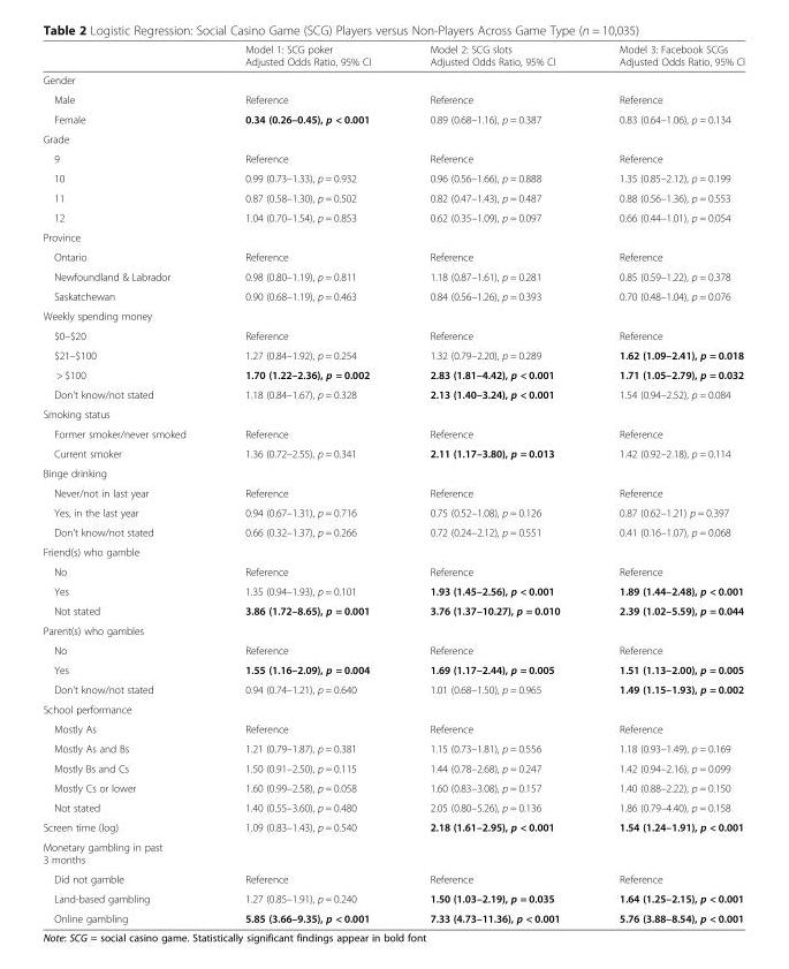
<table><thead><tr><td></td><td>Model 1: SCG poker Adjusted Odds Ratio, 95% CI</td><td>Model 2: SCG slots Adjusted Odds Ratio, 95% CI</td><td>Model 3: Facebook SCGs Adjusted Odds Ratio, 95% CI</td></tr></thead><tbody><tr><td colspan="4">Gender</td></tr><tr><td>Male</td><td>Reference</td><td>Reference</td><td>Reference</td></tr><tr><td>Female</td><td>0.34 (0.26–0.45), p &lt; 0.001</td><td>0.89 (0.68–1.16), p = 0.387</td><td>0.83 (0.64–1.06), p = 0.134</td></tr><tr><td colspan="4">Grade</td></tr><tr><td>9</td><td>Reference</td><td>Reference</td><td>Reference</td></tr><tr><td>10</td><td>0.99 (0.73–1.33), p = 0.932</td><td>0.96 (0.56–1.66), p = 0.888</td><td>1.35 (0.85–2.12), p = 0.199</td></tr><tr><td>11</td><td>0.87 (0.58–1.30), p = 0.502</td><td>0.82 (0.47–1.43), p = 0.487</td><td>0.88 (0.56–1.36), p = 0.553</td></tr><tr><td>12</td><td>1.04 (0.70–1.54), p = 0.853</td><td>0.62 (0.35–1.09), p = 0.097</td><td>0.66 (0.44–1.01), p = 0.054</td></tr><tr><td colspan="4">Province</td></tr><tr><td>Ontario</td><td>Reference</td><td>Reference</td><td>Reference</td></tr><tr><td>Newfoundland &amp; Labrador</td><td>0.98 (0.80–1.19), p = 0.811</td><td>1.18 (0.87–1.61), p = 0.281</td><td>0.85 (0.59–1.22), p = 0.378</td></tr><tr><td>Saskatchewan</td><td>0.90 (0.68–1.19), p = 0.463</td><td>0.84 (0.56–1.26), p = 0.393</td><td>0.70 (0.48–1.04), p = 0.076</td></tr><tr><td colspan="4">Weekly spending money</td></tr><tr><td>$0–$20</td><td>Reference</td><td>Reference</td><td>Reference</td></tr><tr><td>$21–$100</td><td>1.27 (0.84–1.92), p = 0.254</td><td>1.32 (0.79–2.20), p = 0.289</td><td>1.62 (1.09–2.41), p = 0.018</td></tr><tr><td>&gt; $100</td><td>1.70 (1.22–2.36), p = 0.002</td><td>2.83 (1.81–4.42), p &lt; 0.001</td><td>1.71 (1.05–2.79), p = 0.032</td></tr><tr><td>Don’t know/not stated</td><td>1.18 (0.84–1.67), p = 0.328</td><td>2.13 (1.40–3.24), p &lt; 0.001</td><td>1.54 (0.94–2.52), p = 0.084</td></tr><tr><td colspan="4">Smoking status</td></tr><tr><td>Former smoker/never smoked</td><td>Reference</td><td>Reference</td><td>Reference</td></tr><tr><td>Current smoker</td><td>1.36 (0.72–2.55), p = 0.341</td><td>2.11 (1.17–3.80), p = 0.013</td><td>1.42 (0.92–2.18), p = 0.114</td></tr><tr><td colspan="4">Binge drinking</td></tr><tr><td>Never/not in last year</td><td>Reference</td><td>Reference</td><td>Reference</td></tr><tr><td>Yes, in the last year</td><td>0.94 (0.67–1.31), p = 0.716</td><td>0.75 (0.52–1.08), p = 0.126</td><td>0.87 (0.62–1.21) p = 0.397</td></tr><tr><td>Don’t know/not stated</td><td>0.66 (0.32–1.37), p = 0.266</td><td>0.72 (0.24–2.12), p = 0.551</td><td>0.41 (0.16–1.07), p = 0.068</td></tr><tr><td colspan="4">Friend(s) who gamble</td></tr><tr><td>No</td><td>Reference</td><td>Reference</td><td>Reference</td></tr><tr><td>Yes</td><td>1.35 (0.94–1.93), p = 0.101</td><td>1.93 (1.45–2.56), p &lt; 0.001</td><td>1.89 (1.44–2.48), p &lt; 0.001</td></tr><tr><td>Not stated</td><td>3.86 (1.72–8.65), p = 0.001</td><td>3.76 (1.37–10.27), p = 0.010</td><td>2.39 (1.02–5.59), p = 0.044</td></tr><tr><td colspan="4">Parent(s) who gambles</td></tr><tr><td>No</td><td>Reference</td><td>Reference</td><td>Reference</td></tr><tr><td>Yes</td><td>1.55 (1.16–2.09), p = 0.004</td><td>1.69 (1.17–2.44), p = 0.005</td><td>1.51 (1.13–2.00), p = 0.005</td></tr><tr><td>Don’t know/not stated</td><td>0.94 (0.74–1.21), p = 0.640</td><td>1.01 (0.68–1.50), p = 0.965</td><td>1.49 (1.15–1.93), p = 0.002</td></tr><tr><td colspan="4">School performance</td></tr><tr><td>Mostly As</td><td>Reference</td><td>Reference</td><td>Reference</td></tr><tr><td>Mostly As and Bs</td><td>1.21 (0.79–1.87), p = 0.381</td><td>1.15 (0.73–1.81), p = 0.556</td><td>1.18 (0.93–1.49), p = 0.169</td></tr><tr><td>Mostly Bs and Cs</td><td>1.50 (0.91–2.50), p = 0.115</td><td>1.44 (0.78–2.68), p = 0.247</td><td>1.42 (0.94–2.16), p = 0.099</td></tr><tr><td>Mostly Cs or lower</td><td>1.60 (0.99–2.58), p = 0.058</td><td>1.60 (0.83–3.08), p = 0.157</td><td>1.40 (0.88–2.22), p = 0.150</td></tr><tr><td>Not stated</td><td>1.40 (0.55–3.60), p = 0.480</td><td>2.05 (0.80–5.26), p = 0.136</td><td>1.86 (0.79–4.40), p = 0.158</td></tr><tr><td>Screen time (log)</td><td>1.09 (0.83–1.43), p = 0.540</td><td>2.18 (1.61–2.95), p &lt; 0.001</td><td>1.54 (1.24–1.91), p &lt; 0.001</td></tr><tr><td colspan="4">Monetary gambling in past 3 months</td></tr><tr><td>Did not gamble</td><td>Reference</td><td>Reference</td><td>Reference</td></tr><tr><td>Land-based gambling</td><td>1.27 (0.85–1.91), p = 0.240</td><td>1.50 (1.03–2.19), p = 0.035</td><td>1.64 (1.25–2.15), p &lt; 0.001</td></tr><tr><td>Online gambling</td><td>5.85 (3.66–9.35), p &lt; 0.001</td><td>7.33 (4.73–11.36), p &lt; 0.001</td><td>5.76 (3.88–8.54), p &lt; 0.001</td></tr></tbody></table>